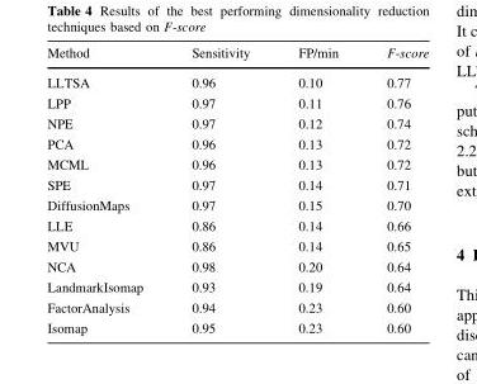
<table><thead><tr><td>Method</td><td>Sensitivity</td><td>FP/min</td><td>F-score</td></tr></thead><tbody><tr><td>LLTSA</td><td>0.96</td><td>0.10</td><td>0.77</td></tr><tr><td>LPP</td><td>0.97</td><td>0.11</td><td>0.76</td></tr><tr><td>NPE</td><td>0.97</td><td>0.12</td><td>0.74</td></tr><tr><td>PCA</td><td>0.96</td><td>0.13</td><td>0.72</td></tr><tr><td>MCML</td><td>0.96</td><td>0.13</td><td>0.72</td></tr><tr><td>SPE</td><td>0.97</td><td>0.14</td><td>0.71</td></tr><tr><td>DiffusionMaps</td><td>0.97</td><td>0.15</td><td>0.70</td></tr><tr><td>LLE</td><td>0.86</td><td>0.14</td><td>0.66</td></tr><tr><td>MVU</td><td>0.86</td><td>0.14</td><td>0.65</td></tr><tr><td>NCA</td><td>0.98</td><td>0.20</td><td>0.64</td></tr><tr><td>LandmarkIsomap</td><td>0.93</td><td>0.19</td><td>0.64</td></tr><tr><td>FactorAnalysis</td><td>0.94</td><td>0.23</td><td>0.60</td></tr><tr><td>Isomap</td><td>0.95</td><td>0.23</td><td>0.60</td></tr></tbody></table>